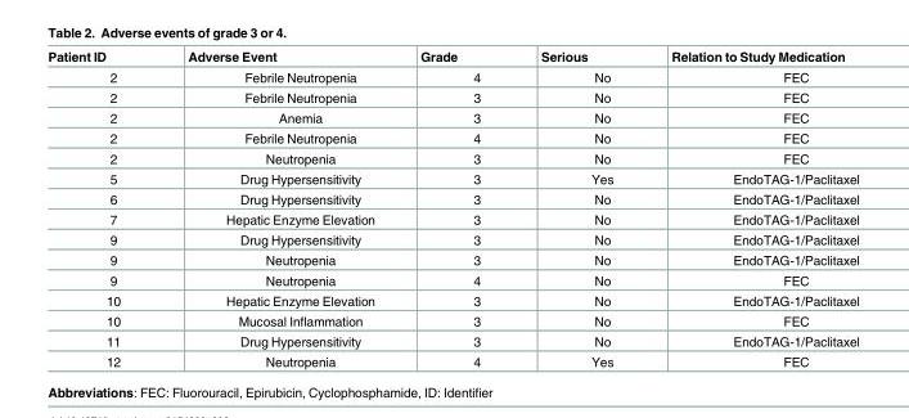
<table><thead><tr><td>Patient ID</td><td>Adverse Event</td><td>Grade</td><td>Serious</td><td>Relation to Study Medication</td></tr></thead><tbody><tr><td>2</td><td>Febrile Neutropenia</td><td>4</td><td>No</td><td>FEC</td></tr><tr><td>2</td><td>Febrile Neutropenia</td><td>3</td><td>No</td><td>FEC</td></tr><tr><td>2</td><td>Anemia</td><td>3</td><td>No</td><td>FEC</td></tr><tr><td>2</td><td>Febrile Neutropenia</td><td>4</td><td>No</td><td>FEC</td></tr><tr><td>2</td><td>Neutropenia</td><td>3</td><td>No</td><td>FEC</td></tr><tr><td>5</td><td>Drug Hypersensitivity</td><td>3</td><td>Yes</td><td>EndoTAG-1/Paclitaxel</td></tr><tr><td>6</td><td>Drug Hypersensitivity</td><td>3</td><td>No</td><td>EndoTAG-1/Paclitaxel</td></tr><tr><td>7</td><td>Hepatic Enzyme Elevation</td><td>3</td><td>No</td><td>EndoTAG-1/Paclitaxel</td></tr><tr><td>9</td><td>Drug Hypersensitivity</td><td>3</td><td>No</td><td>EndoTAG-1/Paclitaxel</td></tr><tr><td>9</td><td>Neutropenia</td><td>3</td><td>No</td><td>EndoTAG-1/Paclitaxel</td></tr><tr><td>9</td><td>Neutropenia</td><td>4</td><td>No</td><td>FEC</td></tr><tr><td>10</td><td>Hepatic Enzyme Elevation</td><td>3</td><td>No</td><td>EndoTAG-1/Paclitaxel</td></tr><tr><td>10</td><td>Mucosal Inflammation</td><td>3</td><td>No</td><td>FEC</td></tr><tr><td>11</td><td>Drug Hypersensitivity</td><td>3</td><td>No</td><td>EndoTAG-1/Paclitaxel</td></tr><tr><td>12</td><td>Neutropenia</td><td>4</td><td>Yes</td><td>FEC</td></tr></tbody></table>